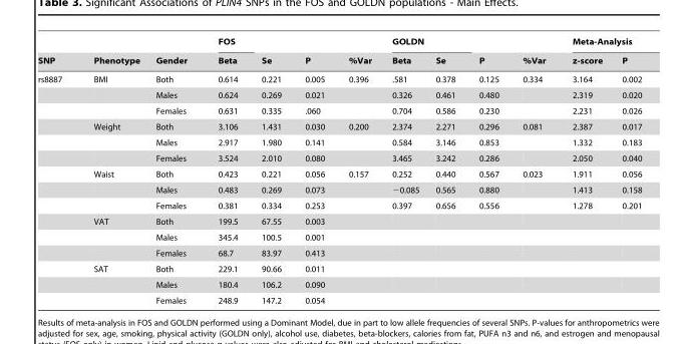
<table><thead><tr><td rowspan="2">SNP</td><td rowspan="2">Phenotype</td><td rowspan="2">Gender</td><td rowspan="2">FOS Beta</td><td rowspan="2">Se</td><td rowspan="2">P</td><td rowspan="2">%Var</td><td colspan="2">GOLDN</td><td rowspan="2">P</td><td rowspan="2">%Var</td><td colspan="2">Meta-Analysis</td></tr><tr><td>Beta</td><td>Se</td><td>z-score</td><td>P</td></tr></thead><tbody><tr><td rowspan="15">rs8887</td><td>BMI</td><td>Both</td><td>0.614</td><td>0.221</td><td>0.005</td><td>0.396</td><td>.581</td><td>0.378</td><td>0.125</td><td>0.334</td><td>3.164</td><td>0.002</td></tr><tr><td></td><td>Males</td><td>0.624</td><td>0.269</td><td>0.021</td><td></td><td>0.326</td><td>0.461</td><td>0.480</td><td></td><td>2.319</td><td>0.020</td></tr><tr><td></td><td>Females</td><td>0.631</td><td>0.335</td><td>.060</td><td></td><td>0.704</td><td>0.586</td><td>0.230</td><td></td><td>2.231</td><td>0.026</td></tr><tr><td>Weight</td><td>Both</td><td>3.106</td><td>1.431</td><td>0.030</td><td>0.200</td><td>2.374</td><td>2.271</td><td>0.296</td><td>0.081</td><td>2.387</td><td>0.017</td></tr><tr><td></td><td>Males</td><td>2.917</td><td>1.980</td><td>0.141</td><td></td><td>0.584</td><td>3.146</td><td>0.853</td><td></td><td>1.332</td><td>0.183</td></tr><tr><td></td><td>Females</td><td>3.524</td><td>2.010</td><td>0.080</td><td></td><td>3.465</td><td>3.242</td><td>0.286</td><td></td><td>2.050</td><td>0.040</td></tr><tr><td>Waist</td><td>Both</td><td>0.423</td><td>0.221</td><td>0.056</td><td>0.157</td><td>0.252</td><td>0.440</td><td>0.567</td><td>0.023</td><td>1.911</td><td>0.056</td></tr><tr><td></td><td>Males</td><td>0.483</td><td>0.269</td><td>0.073</td><td></td><td>−0.085</td><td>0.565</td><td>0.880</td><td></td><td>1.413</td><td>0.158</td></tr><tr><td></td><td>Females</td><td>0.381</td><td>0.334</td><td>0.253</td><td></td><td>0.397</td><td>0.656</td><td>0.556</td><td></td><td>1.278</td><td>0.201</td></tr><tr><td>VAT</td><td>Both</td><td>199.5</td><td>67.55</td><td>0.003</td><td></td><td></td><td></td><td></td><td></td><td></td><td></td></tr><tr><td></td><td>Males</td><td>345.4</td><td>100.5</td><td>0.001</td><td></td><td></td><td></td><td></td><td></td><td></td><td></td></tr><tr><td></td><td>Females</td><td>68.7</td><td>83.97</td><td>0.413</td><td></td><td></td><td></td><td></td><td></td><td></td><td></td></tr><tr><td>SAT</td><td>Both</td><td>229.1</td><td>90.66</td><td>0.011</td><td></td><td></td><td></td><td></td><td></td><td></td><td></td></tr><tr><td></td><td>Males</td><td>180.4</td><td>106.2</td><td>0.090</td><td></td><td></td><td></td><td></td><td></td><td></td><td></td></tr><tr><td></td><td>Females</td><td>248.9</td><td>147.2</td><td>0.054</td><td></td><td></td><td></td><td></td><td></td><td></td><td></td></tr></tbody></table>